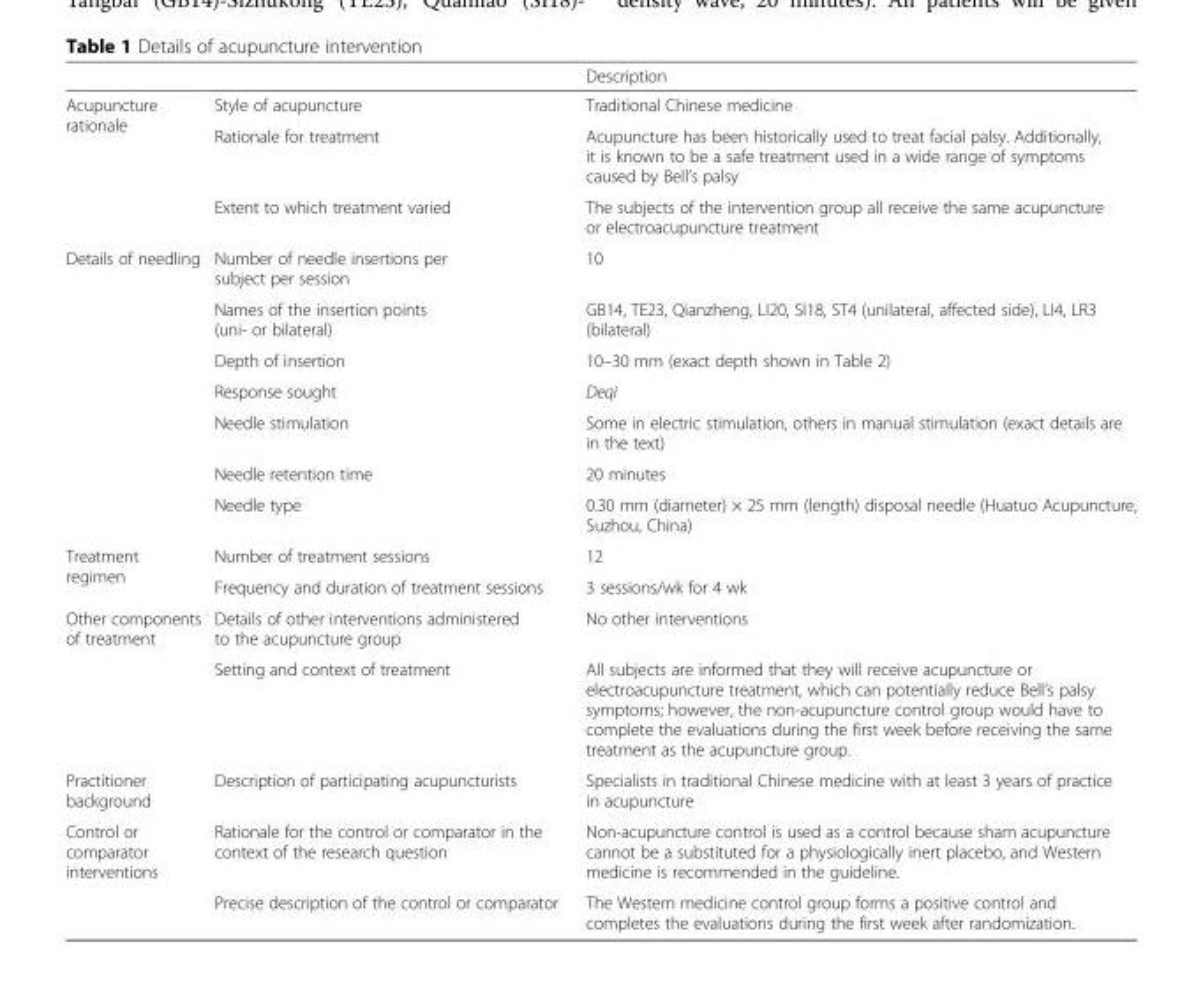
<table><thead><tr><td></td><td></td><td>Description</td></tr></thead><tbody><tr><td rowspan="3">Acupuncture rationale</td><td>Style of acupuncture</td><td>Traditional Chinese medicine</td></tr><tr><td>Rationale for treatment</td><td>Acupuncture has been historically used to treat facial palsy. Additionally, it is known to be a safe treatment used in a wide range of symptoms caused by Bell’s palsy</td></tr><tr><td>Extent to which treatment varied</td><td>The subjects of the intervention group all receive the same acupuncture or electroacupuncture treatment</td></tr><tr><td rowspan="7">Details of needling</td><td>Number of needle insertions per subject per session</td><td>10</td></tr><tr><td>Names of the insertion points (uni- or bilateral)</td><td>GB14, TE23, Qianzheng, LI20, SI18, ST4 (unilateral, affected side), LI4, LR3 (bilateral)</td></tr><tr><td>Depth of insertion</td><td>10–30 mm (exact depth shown in Table 2)</td></tr><tr><td>Response sought</td><td>Deqi</td></tr><tr><td>Needle stimulation</td><td>Some in electric stimulation, others in manual stimulation (exact details are in the text)</td></tr><tr><td>Needle retention time</td><td>20 minutes</td></tr><tr><td>Needle type</td><td>0.30 mm (diameter) × 25 mm (length) disposal needle (Huatuo Acupuncture, Suzhou, China)</td></tr><tr><td rowspan="2">Treatment regimen</td><td>Number of treatment sessions</td><td>12</td></tr><tr><td>Frequency and duration of treatment sessions</td><td>3 sessions/wk for 4 wk</td></tr><tr><td rowspan="2">Other components of treatment</td><td>Details of other interventions administered to the acupuncture group</td><td>No other interventions</td></tr><tr><td>Setting and context of treatment</td><td>All subjects are informed that they will receive acupuncture or electroacupuncture treatment, which can potentially reduce Bell’s palsy symptoms; however, the non-acupuncture control group would have to complete the evaluations during the first week before receiving the same treatment as the acupuncture group.</td></tr><tr><td>Practitioner background</td><td>Description of participating acupuncturists</td><td>Specialists in traditional Chinese medicine with at least 3 years of practice in acupuncture</td></tr><tr><td rowspan="2">Control or comparator interventions</td><td>Rationale for the control or comparator in the context of the research question</td><td>Non-acupuncture control is used as a control because sham acupuncture cannot be a substituted for a physiologically inert placebo, and Western medicine is recommended in the guideline.</td></tr><tr><td>Precise description of the control or comparator</td><td>The Western medicine control group forms a positive control and completes the evaluations during the first week after randomization.</td></tr></tbody></table>